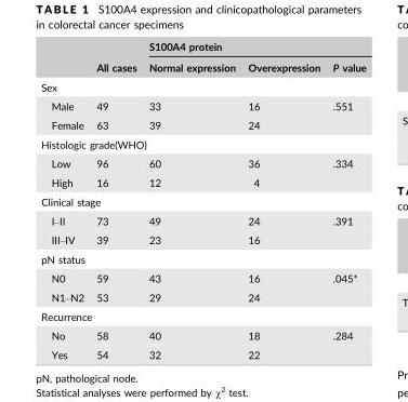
<table><thead><tr><td rowspan="2"></td><td rowspan="2">All cases</td><td colspan="3">S100A4 protein</td></tr><tr><td>Normal expression</td><td>Overexpression</td><td>P value</td></tr></thead><tbody><tr><td colspan="5">Sex</td></tr><tr><td>Male</td><td>49</td><td>33</td><td>16</td><td>.551</td></tr><tr><td>Female</td><td>63</td><td>39</td><td>24</td><td></td></tr><tr><td colspan="5">Histologic grade(WHO)</td></tr><tr><td>Low</td><td>96</td><td>60</td><td>36</td><td>.334</td></tr><tr><td>High</td><td>16</td><td>12</td><td>4</td><td></td></tr><tr><td colspan="5">Clinical stage</td></tr><tr><td>I–II</td><td>73</td><td>49</td><td>24</td><td>.391</td></tr><tr><td>III–IV</td><td>39</td><td>23</td><td>16</td><td></td></tr><tr><td colspan="5">pN status</td></tr><tr><td>N0</td><td>59</td><td>43</td><td>16</td><td>.045*</td></tr><tr><td>N1–N2</td><td>53</td><td>29</td><td>24</td><td></td></tr><tr><td colspan="5">Recurrence</td></tr><tr><td>No</td><td>58</td><td>40</td><td>18</td><td>.284</td></tr><tr><td>Yes</td><td>54</td><td>32</td><td>22</td><td></td></tr></tbody></table>